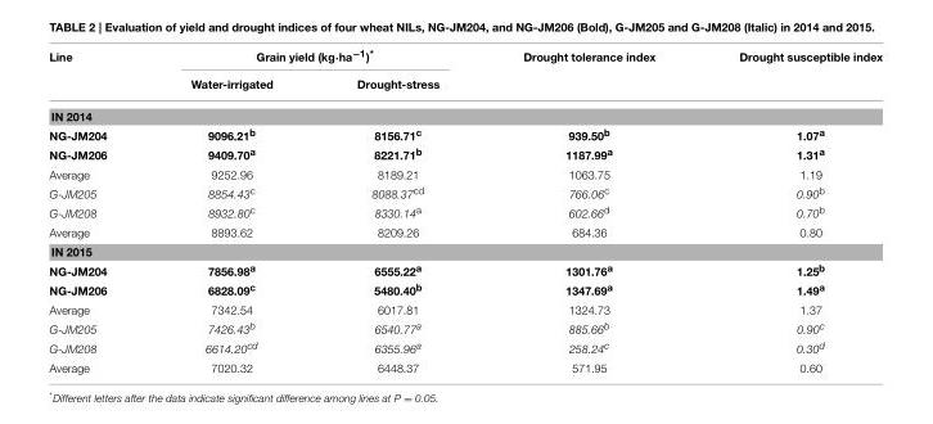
<table><thead><tr><td rowspan="2">Line</td><td colspan="2">Grain yield (kg·ha<sup>−1</sup>)*</td><td rowspan="2">Drought tolerance index</td><td rowspan="2">Drought susceptible index</td></tr><tr><td>Water-irrigated</td><td>Drought-stress</td></tr></thead><tbody><tr><td colspan="5">IN 2014</td></tr><tr><td>NG-JM204</td><td>9096.21<sup>b</sup></td><td>8156.71<sup>c</sup></td><td>939.50<sup>b</sup></td><td>1.07<sup>a</sup></td></tr><tr><td>NG-JM206</td><td>9409.70<sup>a</sup></td><td>8221.71<sup>b</sup></td><td>1187.99<sup>a</sup></td><td>1.31<sup>a</sup></td></tr><tr><td>Average</td><td>9252.96</td><td>8189.21</td><td>1063.75</td><td>1.19</td></tr><tr><td>G-JM205</td><td>8854.43<sup>c</sup></td><td>8088.37<sup>cd</sup></td><td>766.06<sup>c</sup></td><td>0.90<sup>b</sup></td></tr><tr><td>G-JM208</td><td>8932.80<sup>c</sup></td><td>8330.14<sup>a</sup></td><td>602.66<sup>d</sup></td><td>0.70<sup>b</sup></td></tr><tr><td>Average</td><td>8893.62</td><td>8209.26</td><td>684.36</td><td>0.80</td></tr><tr><td colspan="5">IN 2015</td></tr><tr><td>NG-JM204</td><td>7856.98<sup>a</sup></td><td>6555.22<sup>a</sup></td><td>1301.76<sup>a</sup></td><td>1.25<sup>b</sup></td></tr><tr><td>NG-JM206</td><td>6828.09<sup>c</sup></td><td>5480.40<sup>b</sup></td><td>1347.69<sup>a</sup></td><td>1.49<sup>a</sup></td></tr><tr><td>Average</td><td>7342.54</td><td>6017.81</td><td>1324.73</td><td>1.37</td></tr><tr><td>G-JM205</td><td>7426.43b</td><td>6540.77a</td><td>885.66b</td><td>0.90c</td></tr><tr><td>G-JM208</td><td>6614.20cd</td><td>6355.96a</td><td>258.24c</td><td>0.30d</td></tr><tr><td>Average</td><td>7020.32</td><td>6448.37</td><td>571.95</td><td>0.60</td></tr></tbody></table>